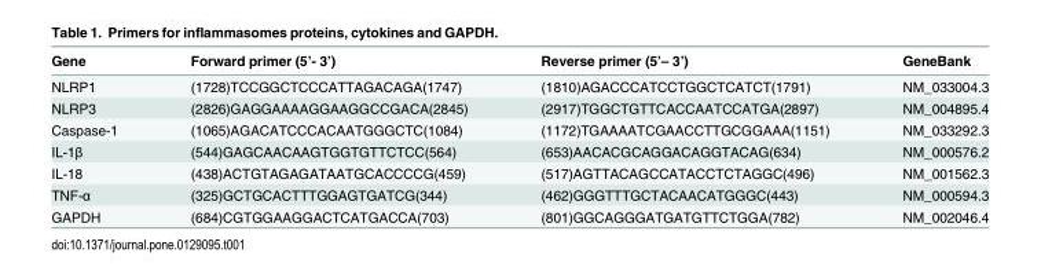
<table><thead><tr><td>Gene</td><td>Forward primer (5’- 3’)</td><td>Reverse primer (5’– 3’)</td><td>GeneBank</td></tr></thead><tbody><tr><td>NLRP1</td><td>(1728)TCCGGCTCCCATTAGACAGA(1747)</td><td>(1810)AGACCCATCCTGGCTCATCT(1791)</td><td>NM_033004.3</td></tr><tr><td>NLRP3</td><td>(2826)GAGGAAAAGGAAGGCCGACA(2845)</td><td>(2917)TGGCTGTTCACCAATCCATGA(2897)</td><td>NM_004895.4</td></tr><tr><td>Caspase-1</td><td>(1065)AGACATCCCACAATGGGCTC(1084)</td><td>(1172)TGAAAATCGAACCTTGCGGAAA(1151)</td><td>NM_033292.3</td></tr><tr><td>IL-1β</td><td>(544)GAGCAACAAGTGGTGTTCTCC(564)</td><td>(653)AACACGCAGGACAGGTACAG(634)</td><td>NM_000576.2</td></tr><tr><td>IL-18</td><td>(438)ACTGTAGAGATAATGCACCCCG(459)</td><td>(517)AGTTACAGCCATACCTCTAGGC(496)</td><td>NM_001562.3</td></tr><tr><td>TNF-α</td><td>(325)GCTGCACTTTGGAGTGATCG(344)</td><td>(462)GGGTTTGCTACAACATGGGC(443)</td><td>NM_000594.3</td></tr><tr><td>GAPDH</td><td>(684)CGTGGAAGGACTCATGACCA(703)</td><td>(801)GGCAGGGATGATGTTCTGGA(782)</td><td>NM_002046.4</td></tr></tbody></table>